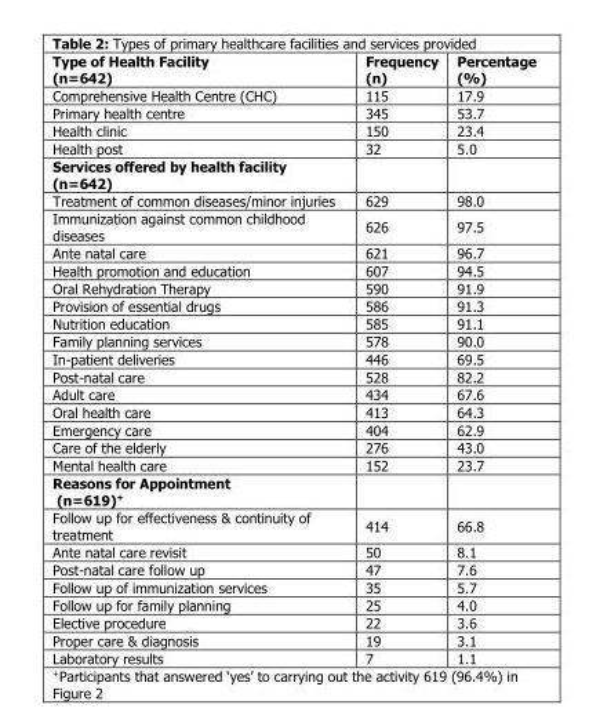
<table><thead><tr><td>Type of Health Facility (n=642)</td><td>Frequency (n)</td><td>Percentage (%)</td></tr></thead><tbody><tr><td>Comprehensive Health Centre (CHC)</td><td>115</td><td>17.9</td></tr><tr><td>Primary health centre</td><td>345</td><td>53.7</td></tr><tr><td>Health clinic</td><td>150</td><td>23.4</td></tr><tr><td>Health post</td><td>32</td><td>5.0</td></tr><tr><td colspan="3">Services offered by health facility (n=642)</td></tr><tr><td>Treatment of common diseases/minor injuries</td><td>629</td><td>98.0</td></tr><tr><td>Immunization against common childhood diseases</td><td>626</td><td>97.5</td></tr><tr><td>Ante natal care</td><td>621</td><td>96.7</td></tr><tr><td>Health promotion and education</td><td>607</td><td>94.5</td></tr><tr><td>Oral Rehydration Therapy</td><td>590</td><td>91.9</td></tr><tr><td>Provision of essential drugs</td><td>586</td><td>91.3</td></tr><tr><td>Nutrition education</td><td>585</td><td>91.1</td></tr><tr><td>Family planning services</td><td>578</td><td>90.0</td></tr><tr><td>In-patient deliveries</td><td>446</td><td>69.5</td></tr><tr><td>Post-natal care</td><td>528</td><td>82.2</td></tr><tr><td>Adult care</td><td>434</td><td>67.6</td></tr><tr><td>Oral health care</td><td>413</td><td>64.3</td></tr><tr><td>Emergency care</td><td>404</td><td>62.9</td></tr><tr><td>Care of the elderly</td><td>276</td><td>43.0</td></tr><tr><td>Mental health care</td><td>152</td><td>23.7</td></tr><tr><td colspan="3">Reasons for Appointment (n=619)+</td></tr><tr><td>Follow up for effectiveness &amp; continuity of treatment</td><td>414</td><td>66.8</td></tr><tr><td>Ante natal care revisit</td><td>50</td><td>8.1</td></tr><tr><td>Post-natal care follow up</td><td>47</td><td>7.6</td></tr><tr><td>Follow up of immunization services</td><td>35</td><td>5.7</td></tr><tr><td>Follow up for family planning</td><td>25</td><td>4.0</td></tr><tr><td>Elective procedure</td><td>22</td><td>3.6</td></tr><tr><td>Proper care &amp; diagnosis</td><td>19</td><td>3.1</td></tr><tr><td>Laboratory results</td><td>7</td><td>1.1</td></tr></tbody></table>